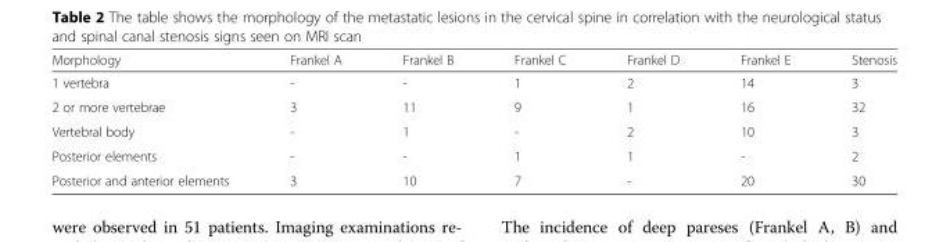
<table><thead><tr><td>Morphology</td><td>Frankel A</td><td>Frankel B</td><td>Frankel C</td><td>Frankel D</td><td>Frankel E</td><td>Stenosis</td></tr></thead><tbody><tr><td>1 vertebra</td><td>-</td><td>-</td><td>1</td><td>2</td><td>14</td><td>3</td></tr><tr><td>2 or more vertebrae</td><td>3</td><td>11</td><td>9</td><td>1</td><td>16</td><td>32</td></tr><tr><td>Vertebral body</td><td>-</td><td>1</td><td>-</td><td>2</td><td>10</td><td>3</td></tr><tr><td>Posterior elements</td><td>-</td><td>-</td><td>1</td><td>1</td><td>-</td><td>2</td></tr><tr><td>Posterior and anterior elements</td><td>3</td><td>10</td><td>7</td><td>-</td><td>20</td><td>30</td></tr></tbody></table>